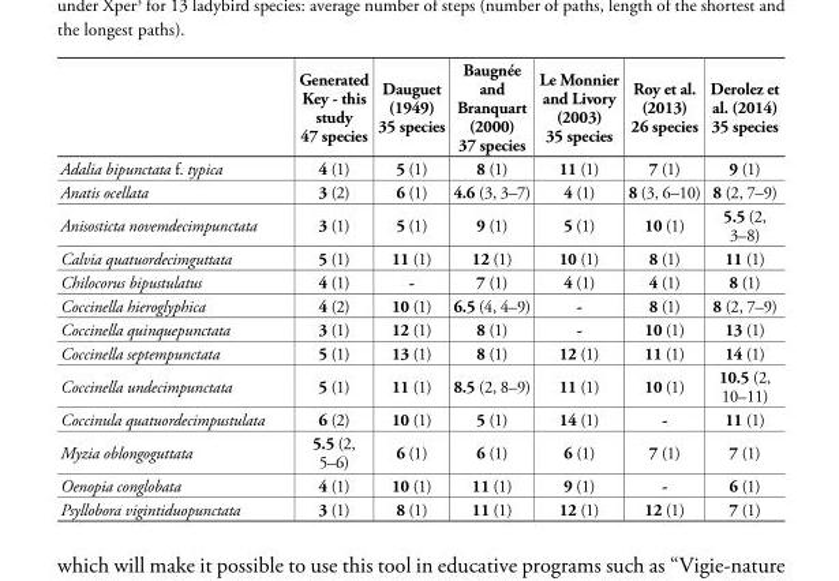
<table><thead><tr><td></td><td>Generated Key - this study 47 species</td><td>Dauguet (1949) 35 species</td><td>Baugnée and Branquart (2000) 37 species</td><td>Le Monnier and Livory (2003) 35 species</td><td>Roy et al. (2013) 26 species</td><td>Derolez et al. (2014) 35 species</td></tr></thead><tbody><tr><td>Adalia bipunctata f. typica</td><td>4 (1)</td><td>5 (1)</td><td>8 (1)</td><td>11 (1)</td><td>7 (1)</td><td>9 (1)</td></tr><tr><td>Anatis ocellata</td><td>3 (2)</td><td>6 (1)</td><td>4.6 (3, 3–7)</td><td>4 (1)</td><td>8 (3, 6–10)</td><td>8 (2, 7–9)</td></tr><tr><td>Anisosticta novemdecimpunctata</td><td>3 (1)</td><td>5 (1)</td><td>9 (1)</td><td>5 (1)</td><td>10 (1)</td><td>5.5 (2, 3–8)</td></tr><tr><td>Calvia quatuordecimguttata</td><td>5 (1)</td><td>11 (1)</td><td>12 (1)</td><td>10 (1)</td><td>8 (1)</td><td>11 (1)</td></tr><tr><td>Chilocorus bipustulatus</td><td>4 (1)</td><td>-</td><td>7 (1)</td><td>4 (1)</td><td>4 (1)</td><td>8 (1)</td></tr><tr><td>Coccinella hieroglyphica</td><td>4 (2)</td><td>10 (1)</td><td>6.5 (4, 4–9)</td><td>-</td><td>8 (1)</td><td>8 (2, 7–9)</td></tr><tr><td>Coccinella quinquepunctata</td><td>3 (1)</td><td>12 (1)</td><td>8 (1)</td><td>-</td><td>10 (1)</td><td>13 (1)</td></tr><tr><td>Coccinella septempunctata</td><td>5 (1)</td><td>13 (1)</td><td>8 (1)</td><td>12 (1)</td><td>11 (1)</td><td>14 (1)</td></tr><tr><td>Coccinella undecimpunctata</td><td>5 (1)</td><td>11 (1)</td><td>8.5 (2, 8–9)</td><td>11 (1)</td><td>10 (1)</td><td>10.5 (2, 10–11)</td></tr><tr><td>Coccinula quatuordecimpustulata</td><td>6 (2)</td><td>10 (1)</td><td>5 (1)</td><td>14 (1)</td><td>-</td><td>11 (1)</td></tr><tr><td>Myzia oblongoguttata</td><td>5.5 (2, 5–6)</td><td>6 (1)</td><td>6 (1)</td><td>6 (1)</td><td>7 (1)</td><td>7 (1)</td></tr><tr><td>Oenopia conglobata</td><td>4 (1)</td><td>10 (1)</td><td>11 (1)</td><td>9 (1)</td><td>-</td><td>6 (1)</td></tr><tr><td>Psyllobora vigintiduopunctata</td><td>3 (1)</td><td>8 (1)</td><td>11 (1)</td><td>12 (1)</td><td>12 (1)</td><td>7 (1)</td></tr></tbody></table>